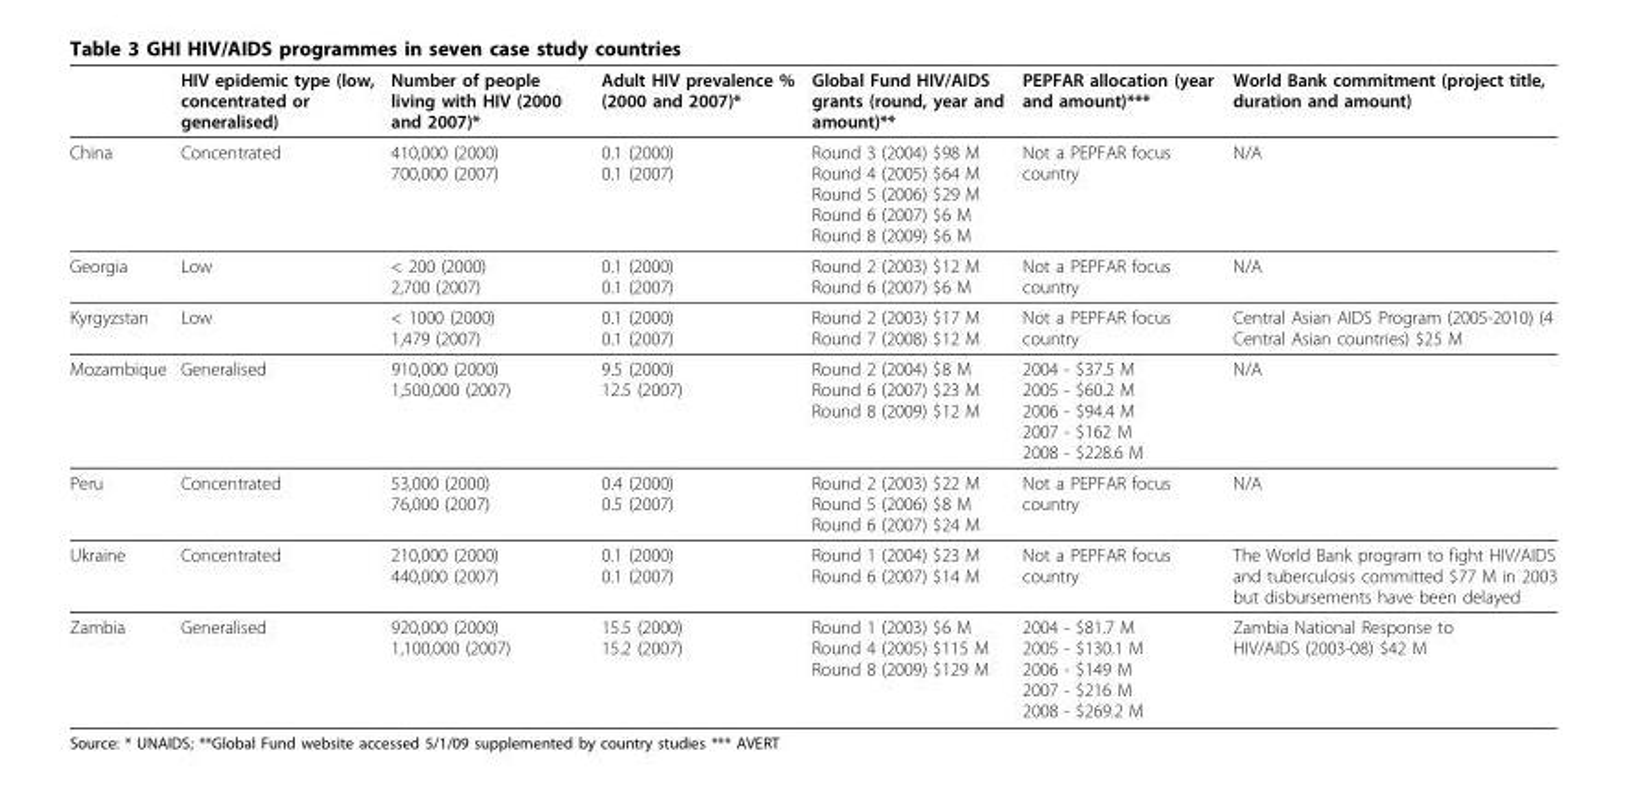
<table><thead><tr><td></td><td>HIV epidemic type (low, concentrated or generalised)</td><td>Number of people living with HIV (2000 and 2007)*</td><td>Adult HIV prevalence % (2000 and 2007)*</td><td>Global Fund HIV/AIDS grants (round, year and amount)**</td><td>PEPFAR allocation (year and amount)***</td><td>World Bank commitment (project title, duration and amount)</td></tr></thead><tbody><tr><td>China</td><td>Concentrated</td><td>410,000 (2000) 700,000 (2007)</td><td>0.1 (2000) 0.1 (2007)</td><td>Round 3 (2004) $98 M Round 4 (2005) $64 M Round 5 (2006) $29 M Round 6 (2007) $6 M Round 8 (2009) $6 M</td><td>Not a PEPFAR focus country</td><td>N/A</td></tr><tr><td>Georgia</td><td>Low</td><td>&lt; 200 (2000) 2,700 (2007)</td><td>0.1 (2000) 0.1 (2007)</td><td>Round 2 (2003) $12 M Round 6 (2007) $6 M</td><td>Not a PEPFAR focus country</td><td>N/A</td></tr><tr><td>Kyrgyzstan</td><td>Low</td><td>&lt; 1000 (2000) 1,479 (2007)</td><td>0.1 (2000) 0.1 (2007)</td><td>Round 2 (2003) $17 M Round 7 (2008) $12 M</td><td>Not a PEPFAR focus country</td><td>Central Asian AIDS Program (2005-2010) (4 Central Asian countries) $25 M</td></tr><tr><td>Mozambique</td><td>Generalised</td><td>910,000 (2000) 1,500,000 (2007)</td><td>9.5 (2000) 12.5 (2007)</td><td>Round 2 (2004) $8 M Round 6 (2007) $23 M Round 8 (2009) $12 M</td><td>2004 - $37.5 M 2005 - $60.2 M 2006 - $94.4 M 2007 - $162 M 2008 - $228.6 M</td><td>N/A</td></tr><tr><td>Peru</td><td>Concentrated</td><td>53,000 (2000) 76,000 (2007)</td><td>0.4 (2000) 0.5 (2007)</td><td>Round 2 (2003) $22 M Round 5 (2006) $8 M Round 6 (2007) $24 M</td><td>Not a PEPFAR focus country</td><td>N/A</td></tr><tr><td>Ukraine</td><td>Concentrated</td><td>210,000 (2000) 440,000 (2007)</td><td>0.1 (2000) 0.1 (2007)</td><td>Round 1 (2004) $23 M Round 6 (2007) $14 M</td><td>Not a PEPFAR focus country</td><td>The World Bank program to fight HIV/AIDS and tuberculosis committed $77 M in 2003 but disbursements have been delayed</td></tr><tr><td>Zambia</td><td>Generalised</td><td>920,000 (2000) 1,100,000 (2007)</td><td>15.5 (2000) 15.2 (2007)</td><td>Round 1 (2003) $6 M Round 4 (2005) $115 M Round 8 (2009) $129 M</td><td>2004 - $81.7 M 2005 - $130.1 M 2006 - $149 M 2007 - $216 M 2008 - $269.2 M</td><td>Zambia National Response to HIV/AIDS (2003-08) $42 M</td></tr></tbody></table>